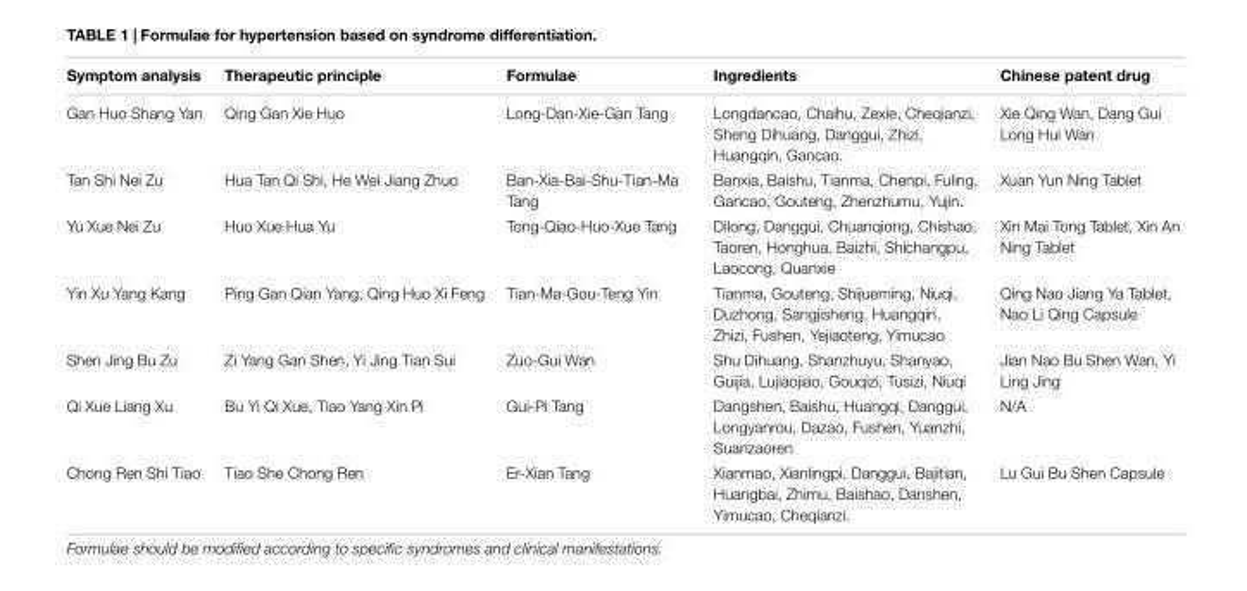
<table><thead><tr><td>Symptom analysis</td><td>Therapeutic principle</td><td>Formulae</td><td>Ingredients</td><td>Chinese patent drug</td></tr></thead><tbody><tr><td>Gan Huo Shang Yan</td><td>Qing Gan Xie Huo</td><td>Long-Dan-Xie-Gan Tang</td><td>Longdancao, Chaihu, Zexie, Cheqianzi, Sheng Dihuang, Danggui, Zhizi, Huangqin, Gancao.</td><td>Xie Qing Wan, Dang Gui Long Hui Wan</td></tr><tr><td>Tan Shi Nei Zu</td><td>Hua Tan Qi Shi, He Wei Jiang Zhuo</td><td>Ban-Xia-Bai-Shu-Tian-Ma Tang</td><td>Banxia, Baishu, Tianma, Chenpi, Fuling, Gancao, Gouteng, Zhenzhumu, Yujin.</td><td>Xuan Yun Ning Tablet</td></tr><tr><td>Yu Xue Nei Zu</td><td>Huo Xue Hua Yu</td><td>Tong-Qiao-Huo-Xue Tang</td><td>Dilong, Danggui, Chuanqiong, Chishao, Taoren, Honghua, Baizhi, Shichangpu, Laocong, Quanxie</td><td>Xin Mai Tong Tablet, Xin An Ning Tablet</td></tr><tr><td>Yin Xu Yang Kang</td><td>Ping Gan Qian Yang, Qing Huo Xi Feng</td><td>Tian-Ma-Gou-Teng Yin</td><td>Tianma, Gouteng, Shijueming, Niuqi, Duzhong, Sangjisheng, Huangqin, Zhizi, Fushen, Yejiaoteng, Yimucao</td><td>Qing Nao Jiang Ya Tablet, Nao Li Qing Capsule</td></tr><tr><td>Shen Jing Bu Zu</td><td>Zi Yang Gan Shen, Yi Jing Tian Sui</td><td>Zuo-Gui Wan</td><td>Shu Dihuang, Shanzhuyu, Shanyao, Guijia, Lujiaojiao, Gouqizi, Tusizi, Niuqi</td><td>Jian Nao Bu Shen Wan, Yi Ling Jing</td></tr><tr><td>Qi Xue Liang Xu</td><td>Bu Yi Qi Xue, Tiao Yang Xin Pi</td><td>Gui-Pi Tang</td><td>Dangshen, Baishu, Huangqi, Danggui, Longyanrou, Dazao, Fushen, Yuanzhi, Suanzaoren</td><td>N/A</td></tr><tr><td>Chong Ren Shi Tiao</td><td>Tiao She Chong Ren</td><td>Er-Xian Tang</td><td>Xianmao, Xianlingpi, Danggui, Bajitian, Huangbai, Zhimu, Baishao, Danshen, Yimucao, Cheqianzi.</td><td>Lu Gui Bu Shen Capsule</td></tr></tbody></table>